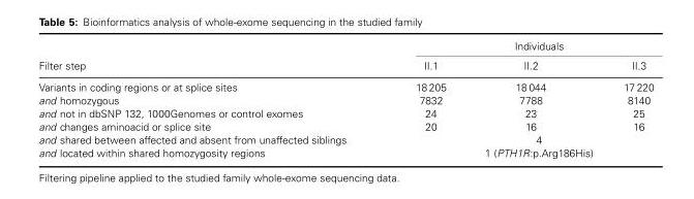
<table><thead><tr><td rowspan="2">Filter step</td><td colspan="3">Individuals</td></tr><tr><td>II.1</td><td>II.2</td><td>II.3</td></tr></thead><tbody><tr><td>Variants in coding regions or at splice sites</td><td>18 205</td><td>18 044</td><td>17 220</td></tr><tr><td>and homozygous</td><td>7832</td><td>7788</td><td>8140</td></tr><tr><td>and not in dbSNP 132, 1000Genomes or control exomes</td><td>24</td><td>23</td><td>25</td></tr><tr><td>and changes aminoacid or splice site</td><td>20</td><td>16</td><td>16</td></tr><tr><td>and shared between affected and absent from unaffected siblings</td><td colspan="3">4</td></tr><tr><td>and located within shared homozygosity regions</td><td colspan="3">1 (PTH1R:p.Arg186His)</td></tr></tbody></table>